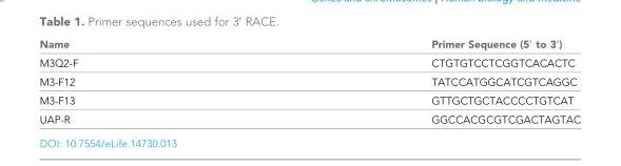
<table><thead><tr><td>Name</td><td>Primer Sequence (5′ to 3′)</td></tr></thead><tbody><tr><td>M3Q2-F</td><td>CTGTGTCCTCGGTCACACTC</td></tr><tr><td>M3-F12</td><td>TATCCATGGCATCGTCAGGC</td></tr><tr><td>M3-F13</td><td>GTTGCTGCTACCCCTGTCAT</td></tr><tr><td>UAP-R</td><td>GGCCACGCGTCGACTAGTAC</td></tr></tbody></table>